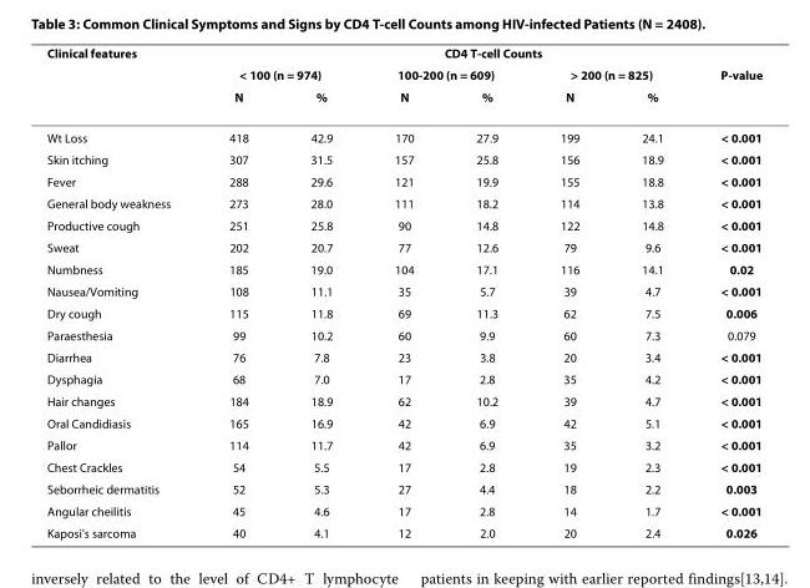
<table><thead><tr><td rowspan="3">Clinical features</td><td colspan="7">CD4 T-cell Counts</td></tr><tr><td colspan="2">&lt; 100 (n = 974)</td><td colspan="2">100-200 (n = 609)</td><td colspan="2">&gt; 200 (n = 825)</td><td rowspan="2">P-value</td></tr><tr><td>N</td><td>%</td><td>N</td><td>%</td><td>N</td><td>%</td></tr></thead><tbody><tr><td>Wt Loss</td><td>418</td><td>42.9</td><td>170</td><td>27.9</td><td>199</td><td>24.1</td><td>&lt; 0.001</td></tr><tr><td>Skin itching</td><td>307</td><td>31.5</td><td>157</td><td>25.8</td><td>156</td><td>18.9</td><td>&lt; 0.001</td></tr><tr><td>Fever</td><td>288</td><td>29.6</td><td>121</td><td>19.9</td><td>155</td><td>18.8</td><td>&lt; 0.001</td></tr><tr><td>General body weakness</td><td>273</td><td>28.0</td><td>111</td><td>18.2</td><td>114</td><td>13.8</td><td>&lt; 0.001</td></tr><tr><td>Productive cough</td><td>251</td><td>25.8</td><td>90</td><td>14.8</td><td>122</td><td>14.8</td><td>&lt; 0.001</td></tr><tr><td>Sweat</td><td>202</td><td>20.7</td><td>77</td><td>12.6</td><td>79</td><td>9.6</td><td>&lt; 0.001</td></tr><tr><td>Numbness</td><td>185</td><td>19.0</td><td>104</td><td>17.1</td><td>116</td><td>14.1</td><td>0.02</td></tr><tr><td>Nausea/Vomiting</td><td>108</td><td>11.1</td><td>35</td><td>5.7</td><td>39</td><td>4.7</td><td>&lt; 0.001</td></tr><tr><td>Dry cough</td><td>115</td><td>11.8</td><td>69</td><td>11.3</td><td>62</td><td>7.5</td><td>0.006</td></tr><tr><td>Paraesthesia</td><td>99</td><td>10.2</td><td>60</td><td>9.9</td><td>60</td><td>7.3</td><td>0.079</td></tr><tr><td>Diarrhea</td><td>76</td><td>7.8</td><td>23</td><td>3.8</td><td>20</td><td>3.4</td><td>&lt; 0.001</td></tr><tr><td>Dysphagia</td><td>68</td><td>7.0</td><td>17</td><td>2.8</td><td>35</td><td>4.2</td><td>&lt; 0.001</td></tr><tr><td>Hair changes</td><td>184</td><td>18.9</td><td>62</td><td>10.2</td><td>39</td><td>4.7</td><td>&lt; 0.001</td></tr><tr><td>Oral Candidiasis</td><td>165</td><td>16.9</td><td>42</td><td>6.9</td><td>42</td><td>5.1</td><td>&lt; 0.001</td></tr><tr><td>Pallor</td><td>114</td><td>11.7</td><td>42</td><td>6.9</td><td>35</td><td>3.2</td><td>&lt; 0.001</td></tr><tr><td>Chest Crackles</td><td>54</td><td>5.5</td><td>17</td><td>2.8</td><td>19</td><td>2.3</td><td>&lt; 0.001</td></tr><tr><td>Seborrheic dermatitis</td><td>52</td><td>5.3</td><td>27</td><td>4.4</td><td>18</td><td>2.2</td><td>0.003</td></tr><tr><td>Angular cheilitis</td><td>45</td><td>4.6</td><td>17</td><td>2.8</td><td>14</td><td>1.7</td><td>&lt; 0.001</td></tr><tr><td>Kaposi&#x27;s sarcoma</td><td>40</td><td>4.1</td><td>12</td><td>2.0</td><td>20</td><td>2.4</td><td>0.026</td></tr></tbody></table>